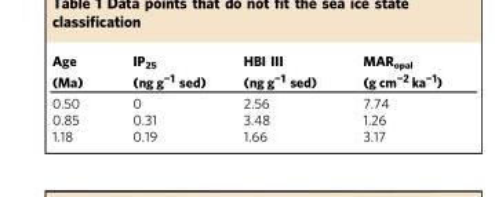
<table><thead><tr><td rowspan="2">Age (Ma)</td><td rowspan="2">IP<sub>25</sub> (ng g<sup>−1</sup> sed)</td><td rowspan="2">HBI III (ng g<sup>−1</sup> sed)</td><td rowspan="2">MAR<sub>opal</sub> (g cm<sup>−2</sup> ka<sup>−1</sup>)</td></tr><tr></tr></thead><tbody><tr><td>0.50</td><td>0</td><td>2.56</td><td>7.74</td></tr><tr><td>0.85</td><td>0.31</td><td>3.48</td><td>1.26</td></tr><tr><td>1.18</td><td>0.19</td><td>1.66</td><td>3.17</td></tr></tbody></table>